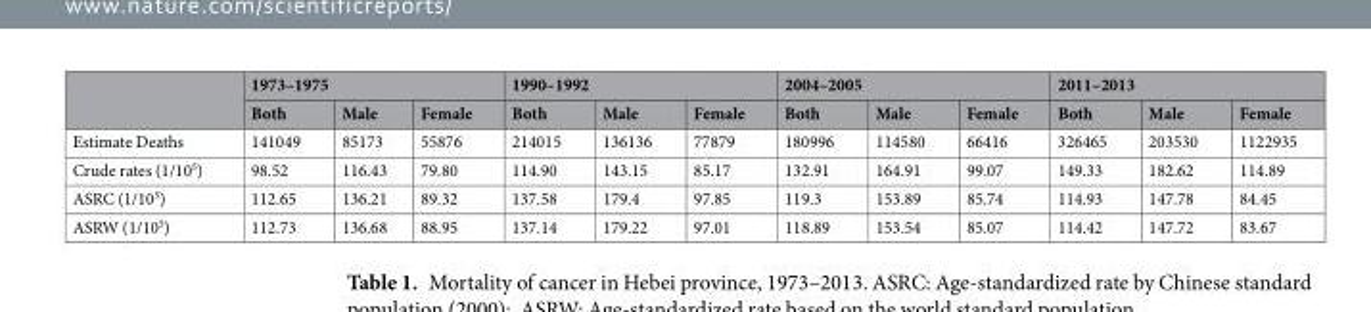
<table><thead><tr><td rowspan="2"></td><td colspan="3">1973–1975</td><td colspan="3">1990–1992</td><td colspan="3">2004–2005</td><td colspan="3">2011–2013</td></tr><tr><td>Both</td><td>Male</td><td>Female</td><td>Both</td><td>Male</td><td>Female</td><td>Both</td><td>Male</td><td>Female</td><td>Both</td><td>Male</td><td>Female</td></tr></thead><tbody><tr><td>Estimate Deaths</td><td>141049</td><td>85173</td><td>55876</td><td>214015</td><td>136136</td><td>77879</td><td>180996</td><td>114580</td><td>66416</td><td>326465</td><td>203530</td><td>1122935</td></tr><tr><td>Crude rates (1/10<sup>5</sup>)</td><td>98.52</td><td>116.43</td><td>79.80</td><td>114.90</td><td>143.15</td><td>85.17</td><td>132.91</td><td>164.91</td><td>99.07</td><td>149.33</td><td>182.62</td><td>114.89</td></tr><tr><td>ASRC (1/10<sup>5</sup>)</td><td>112.65</td><td>136.21</td><td>89.32</td><td>137.58</td><td>179.4</td><td>97.85</td><td>119.3</td><td>153.89</td><td>85.74</td><td>114.93</td><td>147.78</td><td>84.45</td></tr><tr><td>ASRW (1/10<sup>5</sup>)</td><td>112.73</td><td>136.68</td><td>88.95</td><td>137.14</td><td>179.22</td><td>97.01</td><td>118.89</td><td>153.54</td><td>85.07</td><td>114.42</td><td>147.72</td><td>83.67</td></tr></tbody></table>